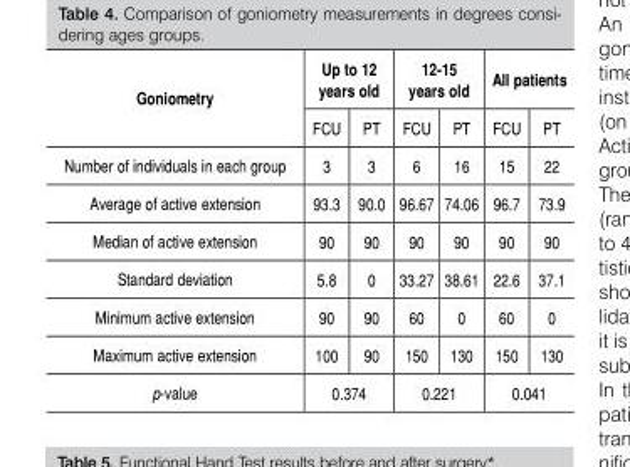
<table><thead><tr><td rowspan="2">Goniometry</td><td colspan="2">Up to 12 years old</td><td colspan="2">12-15 years old</td><td colspan="2">All patients</td></tr><tr><td>FCU</td><td>PT</td><td>FCU</td><td>PT</td><td>FCU</td><td>PT</td></tr></thead><tbody><tr><td>Number of individuals in each group</td><td>3</td><td>3</td><td>6</td><td>16</td><td>15</td><td>22</td></tr><tr><td>Average of active extension</td><td>93.3</td><td>90.0</td><td>96.67</td><td>74.06</td><td>96.7</td><td>73.9</td></tr><tr><td>Median of active extension</td><td>90</td><td>90</td><td>90</td><td>90</td><td>90</td><td>90</td></tr><tr><td>Standard deviation</td><td>5.8</td><td>0</td><td>33.27</td><td>38.61</td><td>22.6</td><td>37.1</td></tr><tr><td>Minimum active extension</td><td>90</td><td>90</td><td>60</td><td>0</td><td>60</td><td>0</td></tr><tr><td>Maximum active extension</td><td>100</td><td>90</td><td>150</td><td>130</td><td>150</td><td>130</td></tr><tr><td>p-value</td><td colspan="2">0.374</td><td colspan="2">0.221</td><td colspan="2">0.041</td></tr></tbody></table>